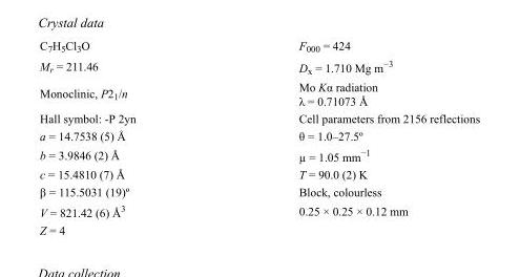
<table><tbody><tr><td>C<sub>7</sub>H<sub>5</sub>Cl<sub>3</sub>O</td><td>F<sub>000</sub> = 424</td></tr><tr><td>M<sub>r</sub> = 211.46</td><td>D<sub>x</sub> = 1.710 Mg m<sup>−3</sup></td></tr><tr><td>Monoclinic, P2<sub>1</sub>/n</td><td>Mo Kα radiation λ = 0.71073 Å</td></tr><tr><td>Hall symbol: -P 2yn</td><td>Cell parameters from 2156 reflections</td></tr><tr><td>a = 14.7538 (5) Å</td><td>θ = 1.0–27.5º</td></tr><tr><td>b = 3.9846 (2) Å</td><td>µ = 1.05 mm<sup>−1</sup></td></tr><tr><td>c = 15.4810 (7) Å</td><td>T = 90.0 (2) K</td></tr><tr><td>β = 115.5031 (19)º</td><td>Block, colourless</td></tr><tr><td>V = 821.42 (6) Å<sup>3</sup></td><td>0.25 × 0.25 × 0.12 mm</td></tr><tr><td>Z = 4</td><td></td></tr></tbody></table>